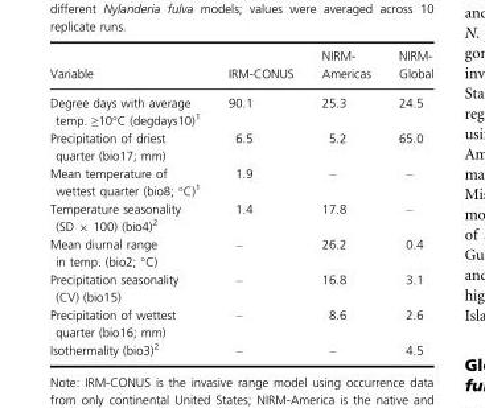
<table><thead><tr><td>Variable</td><td>IRM-CONUS</td><td>NIRM- Americas</td><td>NIRM- Global</td></tr></thead><tbody><tr><td>Degree days with average temp. ≥10°C (degdays10)1</td><td>90.1</td><td>25.3</td><td>24.5</td></tr><tr><td>Precipitation of driest quarter (bio17; mm)</td><td>6.5</td><td>5.2</td><td>65.0</td></tr><tr><td>Mean temperature of wettest quarter (bio8; °C)1</td><td>1.9</td><td>–</td><td>–</td></tr><tr><td>Temperature seasonality (SD 9 100) (bio4)2</td><td>1.4</td><td>17.8</td><td>–</td></tr><tr><td>Mean diurnal range in temp. (bio2; °C)</td><td>–</td><td>26.2</td><td>0.4</td></tr><tr><td>Precipitation seasonality (CV) (bio15)</td><td>–</td><td>16.8</td><td>3.1</td></tr><tr><td>Precipitation of wettest quarter (bio16; mm)</td><td>–</td><td>8.6</td><td>2.6</td></tr><tr><td>Isothermality (bio3)2</td><td>–</td><td>–</td><td>4.5</td></tr></tbody></table>